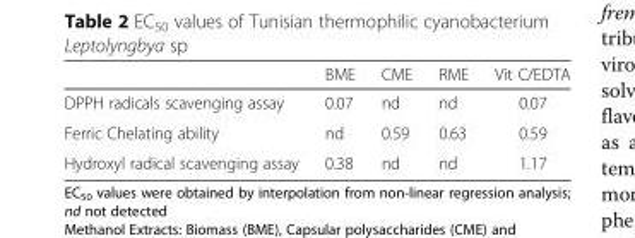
<table><thead><tr><td></td><td>BME</td><td>CME</td><td>RME</td><td>Vit C/EDTA</td></tr></thead><tbody><tr><td>DPPH radicals scavenging assay</td><td>0.07</td><td>nd</td><td>nd</td><td>0.07</td></tr><tr><td>Ferric Chelating ability</td><td>nd</td><td>0.59</td><td>0.63</td><td>0.59</td></tr><tr><td>Hydroxyl radical scavenging assay</td><td>0.38</td><td>nd</td><td>nd</td><td>1.17</td></tr></tbody></table>